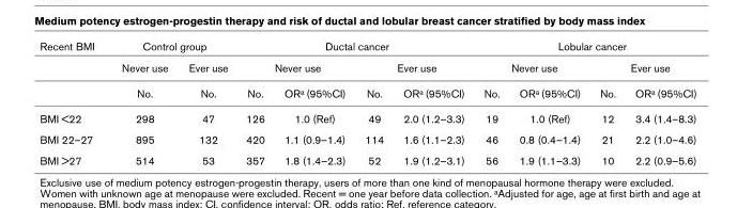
<table><thead><tr><td rowspan="3">Recent BMI</td><td colspan="2">Control group</td><td colspan="4">Ductal cancer</td><td colspan="4">Lobular cancer</td></tr><tr><td rowspan="2">Never use No.</td><td rowspan="2">Ever use No.</td><td colspan="2">Never use</td><td colspan="2">Ever use</td><td colspan="2">Never use</td><td colspan="2">Ever use</td></tr><tr><td>No.</td><td>ORa (95%CI)</td><td>No.</td><td>ORa (95%CI)</td><td>No.</td><td>ORa (95%CI)</td><td>No.</td><td>ORa (95%CI)</td></tr></thead><tbody><tr><td>BMI &lt;22</td><td>298</td><td>47</td><td>126</td><td>1.0 (Ref)</td><td>49</td><td>2.0 (1.2–3.3)</td><td>19</td><td>1.0 (Ref)</td><td>12</td><td>3.4 (1.4–8.3)</td></tr><tr><td>BMI 22–27</td><td>895</td><td>132</td><td>420</td><td>1.1 (0.9–1.4)</td><td>114</td><td>1.6 (1.1–2.3)</td><td>46</td><td>0.8 (0.4–1.4)</td><td>21</td><td>2.2 (1.0–4.6)</td></tr><tr><td>BMI &gt;27</td><td>514</td><td>53</td><td>357</td><td>1.8 (1.4–2.3)</td><td>52</td><td>1.9 (1.2–3.1)</td><td>56</td><td>1.9 (1.1–3.3)</td><td>10</td><td>2.2 (0.9–5.6)</td></tr></tbody></table>